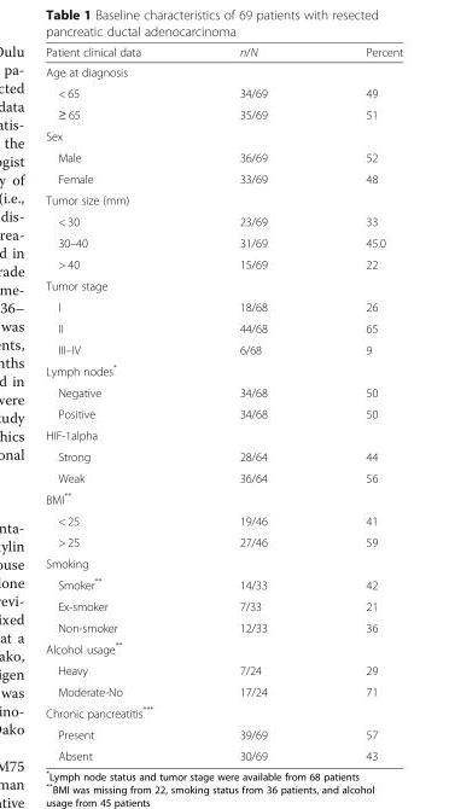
<table><thead><tr><td>Patient clinical data</td><td>n/N</td><td>Percent</td></tr></thead><tbody><tr><td colspan="3">Age at diagnosis</td></tr><tr><td>&lt; 65</td><td>34/69</td><td>49</td></tr><tr><td>≥ 65</td><td>35/69</td><td>51</td></tr><tr><td colspan="3">Sex</td></tr><tr><td>Male</td><td>36/69</td><td>52</td></tr><tr><td>Female</td><td>33/69</td><td>48</td></tr><tr><td colspan="3">Tumor size (mm)</td></tr><tr><td>&lt; 30</td><td>23/69</td><td>33</td></tr><tr><td>30–40</td><td>31/69</td><td>45.0</td></tr><tr><td>&gt; 40</td><td>15/69</td><td>22</td></tr><tr><td colspan="3">Tumor stage</td></tr><tr><td>I</td><td>18/68</td><td>26</td></tr><tr><td>II</td><td>44/68</td><td>65</td></tr><tr><td>III–IV</td><td>6/68</td><td>9</td></tr><tr><td colspan="3">Lymph nodes*</td></tr><tr><td>Negative</td><td>34/68</td><td>50</td></tr><tr><td>Positive</td><td>34/68</td><td>50</td></tr><tr><td colspan="3">HIF-1alpha</td></tr><tr><td>Strong</td><td>28/64</td><td>44</td></tr><tr><td>Weak</td><td>36/64</td><td>56</td></tr><tr><td colspan="3">BMI**</td></tr><tr><td>&lt; 25</td><td>19/46</td><td>41</td></tr><tr><td>&gt; 25</td><td>27/46</td><td>59</td></tr><tr><td colspan="3">Smoking</td></tr><tr><td>Smoker**</td><td>14/33</td><td>42</td></tr><tr><td>Ex-smoker</td><td>7/33</td><td>21</td></tr><tr><td>Non-smoker</td><td>12/33</td><td>36</td></tr><tr><td colspan="3">Alcohol usage**</td></tr><tr><td>Heavy</td><td>7/24</td><td>29</td></tr><tr><td>Moderate-No</td><td>17/24</td><td>71</td></tr><tr><td colspan="3">Chronic pancreatitis***</td></tr><tr><td>Present</td><td>39/69</td><td>57</td></tr><tr><td>Absent</td><td>30/69</td><td>43</td></tr></tbody></table>